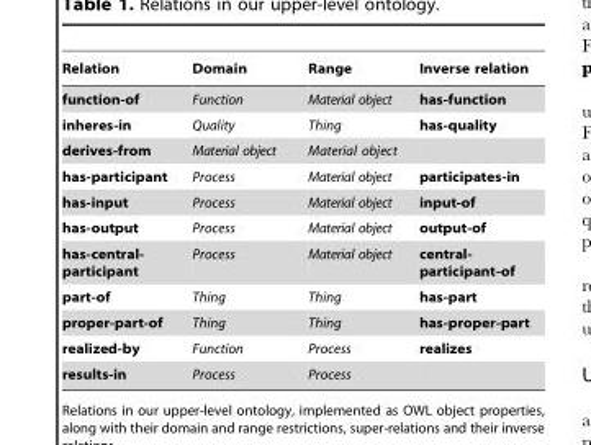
<table><thead><tr><td>Relation</td><td>Domain</td><td>Range</td><td>Inverse relation</td></tr></thead><tbody><tr><td>function-of</td><td>Function</td><td>Material object</td><td>has-function</td></tr><tr><td>inheres-in</td><td>Quality</td><td>Thing</td><td>has-quality</td></tr><tr><td>derives-from</td><td>Material object</td><td>Material object</td><td></td></tr><tr><td>has-participant</td><td>Process</td><td>Material object</td><td>participates-in</td></tr><tr><td>has-input</td><td>Process</td><td>Material object</td><td>input-of</td></tr><tr><td>has-output</td><td>Process</td><td>Material object</td><td>output-of</td></tr><tr><td>has-central- participant</td><td>Process</td><td>Material object</td><td>central- participant-of</td></tr><tr><td>part-of</td><td>Thing</td><td>Thing</td><td>has-part</td></tr><tr><td>proper-part-of</td><td>Thing</td><td>Thing</td><td>has-proper-part</td></tr><tr><td>realized-by</td><td>Function</td><td>Process</td><td>realizes</td></tr><tr><td>results-in</td><td>Process</td><td>Process</td><td></td></tr></tbody></table>